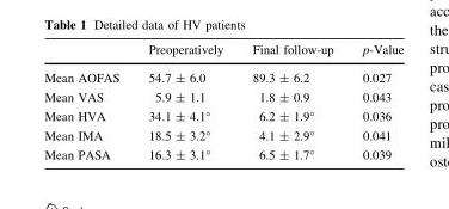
<table><thead><tr><td></td><td>Preoperatively</td><td>Final follow-up</td><td>p-Value</td></tr></thead><tbody><tr><td>Mean AOFAS</td><td>54.7 ± 6.0</td><td>89.3 ± 6.2</td><td>0.027</td></tr><tr><td>Mean VAS</td><td>5.9 ± 1.1</td><td>1.8 ± 0.9</td><td>0.043</td></tr><tr><td>Mean HVA</td><td>34.1 ± 4.1°</td><td>6.2 ± 1.9°</td><td>0.036</td></tr><tr><td>Mean IMA</td><td>18.5 ± 3.2°</td><td>4.1 ± 2.9°</td><td>0.041</td></tr><tr><td>Mean PASA</td><td>16.3 ± 3.1°</td><td>6.5 ± 1.7°</td><td>0.039</td></tr></tbody></table>